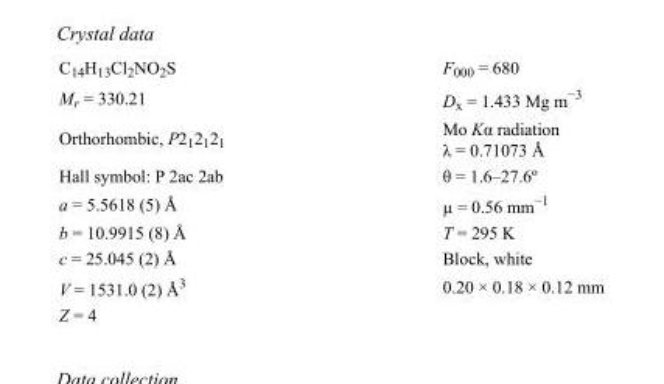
<table><tbody><tr><td>C<sub>14</sub>H<sub>13</sub>Cl<sub>2</sub>NO<sub>2</sub>S</td><td>F000 = 680</td></tr><tr><td>M<sub>r</sub> = 330.21</td><td>D<sub>x</sub> = 1.433 Mg m<sup>−3</sup></td></tr><tr><td>Orthorhombic, P2<sub>1</sub>2<sub>1</sub>2<sub>1</sub></td><td>Mo Kα radiation λ = 0.71073 Å</td></tr><tr><td>Hall symbol: P 2ac 2ab</td><td>θ = 1.6–27.6º</td></tr><tr><td>a = 5.5618 (5) Å</td><td>µ = 0.56 mm<sup>−1</sup></td></tr><tr><td>b = 10.9915 (8) Å</td><td>T = 295 K</td></tr><tr><td>c = 25.045 (2) Å</td><td>Block, white</td></tr><tr><td>V = 1531.0 (2) Å<sup>3</sup></td><td>0.20 × 0.18 × 0.12 mm</td></tr><tr><td>Z = 4</td><td></td></tr></tbody></table>